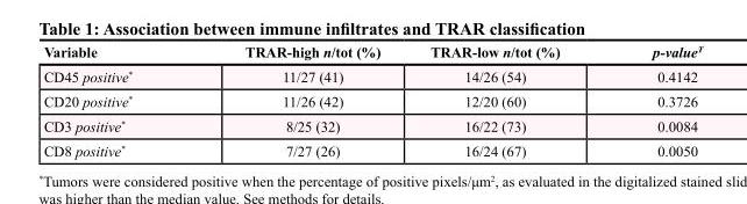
<table><thead><tr><td>Variable</td><td>TRAR-high n/tot (%)</td><td>TRAR-low n/tot (%)</td><td>p-value<sup>Ŧ</sup></td></tr></thead><tbody><tr><td>CD45 positive*</td><td>11/27 (41)</td><td>14/26 (54)</td><td>0.4142</td></tr><tr><td>CD20 positive*</td><td>11/26 (42)</td><td>12/20 (60)</td><td>0.3726</td></tr><tr><td>CD3 positive*</td><td>8/25 (32)</td><td>16/22 (73)</td><td>0.0084</td></tr><tr><td>CD8 positive*</td><td>7/27 (26)</td><td>16/24 (67)</td><td>0.0050</td></tr></tbody></table>